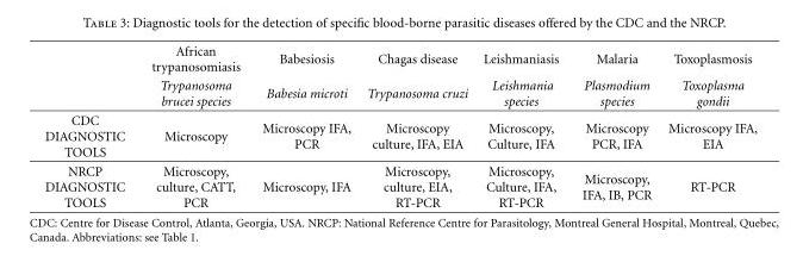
<table><thead><tr><td rowspan="2"></td><td rowspan="2">African trypanosomiasis Trypanosoma brucei species</td><td rowspan="2">Babesiosis Babesia microti</td><td rowspan="2">Chagas disease Trypanosoma cruzi</td><td rowspan="2">Leishmaniasis Leishmania species</td><td rowspan="2">Malaria Plasmodium species</td><td rowspan="2">Toxoplasmosis Toxoplasma gondii</td></tr><tr></tr></thead><tbody><tr><td>CDC DIAGNOSTIC TOOLS</td><td>Microscopy</td><td>Microscopy IFA, PCR</td><td>Microscopy culture, IFA, EIA</td><td>Microscopy, Culture, IFA</td><td>Microscopy PCR, IFA</td><td>Microscopy IFA, EIA</td></tr><tr><td>NRCP DIAGNOSTIC TOOLS</td><td>Microscopy, culture, CATT, PCR</td><td>Microscopy, IFA</td><td>Microscopy, culture, EIA, RT-PCR</td><td>Microscopy, Culture, IFA, RT-PCR</td><td>Microscopy, IFA, IB, PCR</td><td>RT-PCR</td></tr></tbody></table>